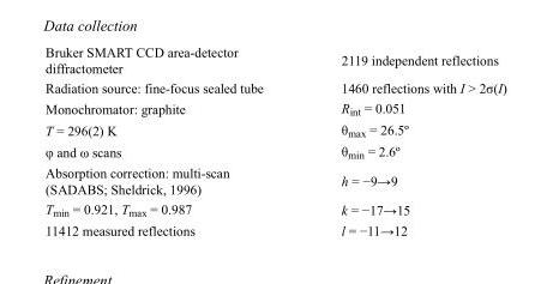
<table><tbody><tr><td>Bruker SMART CCD area-detector diffractometer</td><td>2119 independent reflections</td></tr><tr><td>Radiation source: fine-focus sealed tube</td><td>1460 reflections with I &gt; 2σ(I)</td></tr><tr><td>Monochromator: graphite</td><td>R<sub>int</sub> = 0.051</td></tr><tr><td>T = 296(2) K</td><td>θ<sub>max</sub> = 26.5º</td></tr><tr><td>φ and ω scans</td><td>θ<sub>min</sub> = 2.6º</td></tr><tr><td>Absorption correction: multi-scan (SADABS; Sheldrick, 1996)</td><td>h = −9→9</td></tr><tr><td>T<sub>min</sub> = 0.921, T<sub>max</sub> = 0.987</td><td>k = −17→15</td></tr><tr><td>11412 measured reflections</td><td>l = −11→12</td></tr></tbody></table>